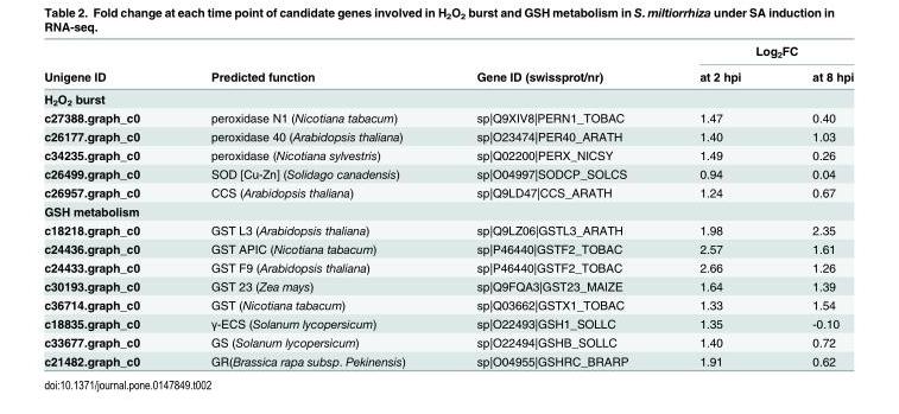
<table><thead><tr><td rowspan="2">Unigene ID</td><td rowspan="2">Predicted function</td><td rowspan="2">Gene ID (swissprot/nr)</td><td colspan="2">Log<sub>2</sub>FC</td></tr><tr><td>at 2 hpi</td><td>at 8 hpi</td></tr></thead><tbody><tr><td colspan="5">H<sub>2</sub>O<sub>2</sub> burst</td></tr><tr><td>c27388.graph_c0</td><td>peroxidase N1 (Nicotiana tabacum)</td><td>sp|Q9XIV8|PERN1_TOBAC</td><td>1.47</td><td>0.40</td></tr><tr><td>c26177.graph_c0</td><td>peroxidase 40 (Arabidopsis thaliana)</td><td>sp|O23474|PER40_ARATH</td><td>1.40</td><td>1.03</td></tr><tr><td>c34235.graph_c0</td><td>peroxidase (Nicotiana sylvestris)</td><td>sp|Q02200|PERX_NICSY</td><td>1.49</td><td>0.26</td></tr><tr><td>c26499.graph_c0</td><td>SOD [Cu-Zn] (Solidago canadensis)</td><td>sp|O04997|SODCP_SOLCS</td><td>0.94</td><td>0.04</td></tr><tr><td>c26957.graph_c0</td><td>CCS (Arabidopsis thaliana)</td><td>sp|Q9LD47|CCS_ARATH</td><td>1.24</td><td>0.67</td></tr><tr><td colspan="5">GSH metabolism</td></tr><tr><td>c18218.graph_c0</td><td>GST L3 (Arabidopsis thaliana)</td><td>sp|Q9LZ06|GSTL3_ARATH</td><td>1.98</td><td>2.35</td></tr><tr><td>c24436.graph_c0</td><td>GST APIC (Nicotiana tabacum)</td><td>sp|P46440|GSTF2_TOBAC</td><td>2.57</td><td>1.61</td></tr><tr><td>c24433.graph_c0</td><td>GST F9 (Arabidopsis thaliana)</td><td>sp|P46440|GSTF2_TOBAC</td><td>2.66</td><td>1.26</td></tr><tr><td>c30193.graph_c0</td><td>GST 23 (Zea mays)</td><td>sp|Q9FQA3|GST23_MAIZE</td><td>1.64</td><td>1.39</td></tr><tr><td>c36714.graph_c0</td><td>GST (Nicotiana tabacum)</td><td>sp|Q03662|GSTX1_TOBAC</td><td>1.33</td><td>1.54</td></tr><tr><td>c18835.graph_c0</td><td>γ-ECS (Solanum lycopersicum)</td><td>sp|O22493|GSH1_SOLLC</td><td>1.35</td><td>-0.10</td></tr><tr><td>c33677.graph_c0</td><td>GS (Solanum lycopersicum)</td><td>sp|O22494|GSHB_SOLLC</td><td>1.40</td><td>0.72</td></tr><tr><td>c21482.graph_c0</td><td>GR(Brassica rapa subsp. Pekinensis)</td><td>sp|O04955|GSHRC_BRARP</td><td>1.91</td><td>0.62</td></tr></tbody></table>